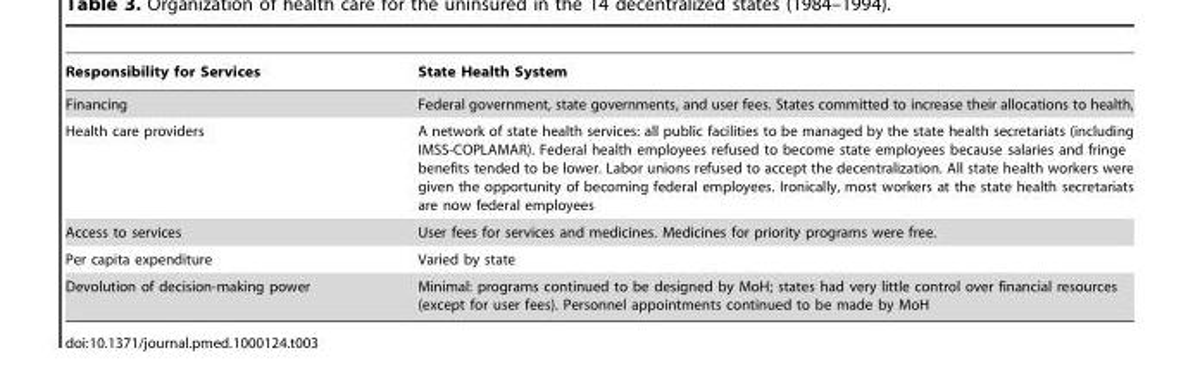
<table><thead><tr><td>Responsibility for Services</td><td>State Health System</td></tr></thead><tbody><tr><td>Financing</td><td>Federal government, state governments, and user fees. States committed to increase their allocations to health,</td></tr><tr><td>Health care providers</td><td>A network of state health services: all public facilities to be managed by the state health secretariats (including IMSS-COPLAMAR). Federal health employees refused to become state employees because salaries and fringe benefits tended to be lower. Labor unions refused to accept the decentralization. All state health workers were given the opportunity of becoming federal employees. Ironically, most workers at the state health secretariats are now federal employees</td></tr><tr><td>Access to services</td><td>User fees for services and medicines. Medicines for priority programs were free.</td></tr><tr><td>Per capita expenditure</td><td>Varied by state</td></tr><tr><td>Devolution of decision-making power</td><td>Minimal: programs continued to be designed by MoH; states had very little control over financial resources (except for user fees). Personnel appointments continued to be made by MoH</td></tr></tbody></table>